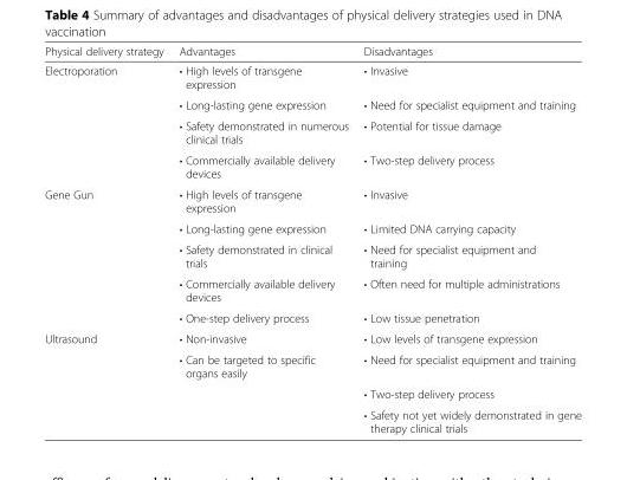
<table><thead><tr><td>Physical delivery strategy</td><td>Advantages</td><td>Disadvantages</td></tr></thead><tbody><tr><td rowspan="4">Electroporation</td><td>• High levels of transgene expression</td><td>• Invasive</td></tr><tr><td>• Long-lasting gene expression</td><td>• Need for specialist equipment and training</td></tr><tr><td>• Safety demonstrated in numerous clinical trials</td><td>• Potential for tissue damage</td></tr><tr><td>• Commercially available delivery devices</td><td>• Two-step delivery process</td></tr><tr><td rowspan="5">Gene Gun</td><td>• High levels of transgene expression</td><td>• Invasive</td></tr><tr><td>• Long-lasting gene expression</td><td>• Limited DNA carrying capacity</td></tr><tr><td>• Safety demonstrated in clinical trials</td><td>• Need for specialist equipment and training</td></tr><tr><td>• Commercially available delivery devices</td><td>• Often need for multiple administrations</td></tr><tr><td>• One-step delivery process</td><td>• Low tissue penetration</td></tr><tr><td rowspan="4">Ultrasound</td><td>• Non-invasive</td><td>• Low levels of transgene expression</td></tr><tr><td>• Can be targeted to specific organs easily</td><td>• Need for specialist equipment and training</td></tr><tr><td rowspan="2"></td><td>• Two-step delivery process</td></tr><tr><td>• Safety not yet widely demonstrated in gene therapy clinical trials</td></tr></tbody></table>